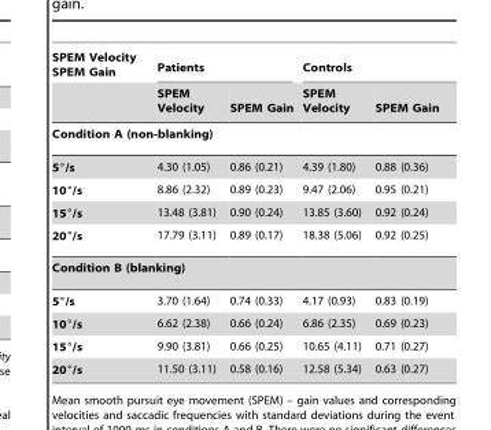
<table><thead><tr><td rowspan="2">SPEM Velocity SPEM Gain</td><td colspan="2">Patients</td><td colspan="2">Controls</td></tr><tr><td>SPEM Velocity</td><td>SPEM Gain</td><td>SPEM Velocity</td><td>SPEM Gain</td></tr></thead><tbody><tr><td colspan="5">Condition A (non-blanking)</td></tr><tr><td>5°/s</td><td>4.30 (1.05)</td><td>0.86 (0.21)</td><td>4.39 (1.80)</td><td>0.88 (0.36)</td></tr><tr><td>10°/s</td><td>8.86 (2.32)</td><td>0.89 (0.23)</td><td>9.47 (2.06)</td><td>0.95 (0.21)</td></tr><tr><td>15°/s</td><td>13.48 (3.81)</td><td>0.90 (0.24)</td><td>13.85 (3.60)</td><td>0.92 (0.24)</td></tr><tr><td>20°/s</td><td>17.79 (3.11)</td><td>0.89 (0.17)</td><td>18.38 (5.06)</td><td>0.92 (0.25)</td></tr><tr><td colspan="5">Condition B (blanking)</td></tr><tr><td>5°/s</td><td>3.70 (1.64)</td><td>0.74 (0.33)</td><td>4.17 (0.93)</td><td>0.83 (0.19)</td></tr><tr><td>10°/s</td><td>6.62 (2.38)</td><td>0.66 (0.24)</td><td>6.86 (2.35)</td><td>0.69 (0.23)</td></tr><tr><td>15°/s</td><td>9.90 (3.81)</td><td>0.66 (0.25)</td><td>10.65 (4.11)</td><td>0.71 (0.27)</td></tr><tr><td>20°/s</td><td>11.50 (3.11)</td><td>0.58 (0.16)</td><td>12.58 (5.34)</td><td>0.63 (0.27)</td></tr></tbody></table>